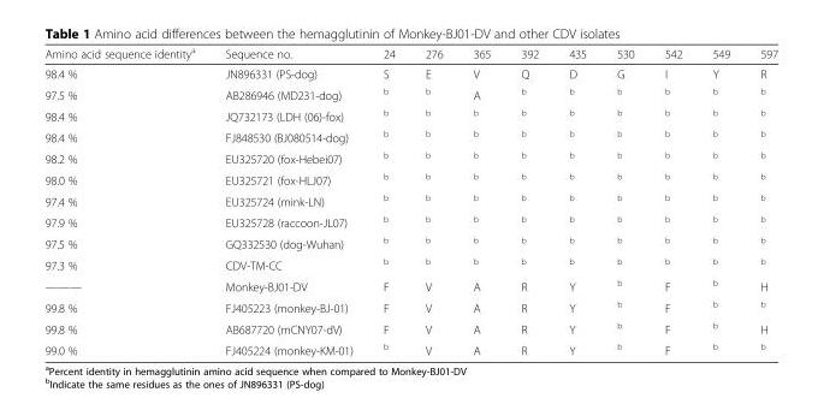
<table><thead><tr><td>Amino acid sequence identity<sup>a</sup></td><td>Sequence no.</td><td>24</td><td>276</td><td>365</td><td>392</td><td>435</td><td>530</td><td>542</td><td>549</td><td>597</td></tr></thead><tbody><tr><td>98.4 %</td><td>JN896331 (PS-dog)</td><td>S</td><td>E</td><td>V</td><td>Q</td><td>D</td><td>G</td><td>I</td><td>Y</td><td>R</td></tr><tr><td>97.5 %</td><td>AB286946 (MD231-dog)</td><td><sup>b</sup></td><td><sup>b</sup></td><td>A</td><td><sup>b</sup></td><td><sup>b</sup></td><td><sup>b</sup></td><td><sup>b</sup></td><td><sup>b</sup></td><td><sup>b</sup></td></tr><tr><td>98.4 %</td><td>JQ732173 (LDH (06)-fox)</td><td><sup>b</sup></td><td><sup>b</sup></td><td><sup>b</sup></td><td><sup>b</sup></td><td><sup>b</sup></td><td><sup>b</sup></td><td><sup>b</sup></td><td><sup>b</sup></td><td><sup>b</sup></td></tr><tr><td>98.4 %</td><td>FJ848530 (BJ080514-dog)</td><td><sup>b</sup></td><td><sup>b</sup></td><td><sup>b</sup></td><td><sup>b</sup></td><td><sup>b</sup></td><td><sup>b</sup></td><td><sup>b</sup></td><td><sup>b</sup></td><td><sup>b</sup></td></tr><tr><td>98.2 %</td><td>EU325720 (fox-Hebei07)</td><td><sup>b</sup></td><td><sup>b</sup></td><td><sup>b</sup></td><td><sup>b</sup></td><td><sup>b</sup></td><td><sup>b</sup></td><td><sup>b</sup></td><td><sup>b</sup></td><td><sup>b</sup></td></tr><tr><td>98.0 %</td><td>EU325721 (fox-HLJ07)</td><td><sup>b</sup></td><td><sup>b</sup></td><td><sup>b</sup></td><td><sup>b</sup></td><td><sup>b</sup></td><td><sup>b</sup></td><td><sup>b</sup></td><td><sup>b</sup></td><td><sup>b</sup></td></tr><tr><td>97.4 %</td><td>EU325724 (mink-LN)</td><td><sup>b</sup></td><td><sup>b</sup></td><td><sup>b</sup></td><td><sup>b</sup></td><td><sup>b</sup></td><td><sup>b</sup></td><td><sup>b</sup></td><td><sup>b</sup></td><td><sup>b</sup></td></tr><tr><td>97.9 %</td><td>EU325728 (raccoon-JL07)</td><td><sup>b</sup></td><td><sup>b</sup></td><td><sup>b</sup></td><td><sup>b</sup></td><td><sup>b</sup></td><td><sup>b</sup></td><td><sup>b</sup></td><td><sup>b</sup></td><td><sup>b</sup></td></tr><tr><td>97.5 %</td><td>GQ332530 (dog-Wuhan)</td><td><sup>b</sup></td><td><sup>b</sup></td><td><sup>b</sup></td><td><sup>b</sup></td><td><sup>b</sup></td><td><sup>b</sup></td><td><sup>b</sup></td><td><sup>b</sup></td><td><sup>b</sup></td></tr><tr><td>97.3 %</td><td>CDV-TM-CC</td><td><sup>b</sup></td><td><sup>b</sup></td><td><sup>b</sup></td><td><sup>b</sup></td><td><sup>b</sup></td><td><sup>b</sup></td><td><sup>b</sup></td><td><sup>b</sup></td><td><sup>b</sup></td></tr><tr><td>———</td><td>Monkey-BJ01-DV</td><td>F</td><td>V</td><td>A</td><td>R</td><td>Y</td><td><sup>b</sup></td><td>F</td><td><sup>b</sup></td><td>H</td></tr><tr><td>99.8 %</td><td>FJ405223 (monkey-BJ-01)</td><td>F</td><td>V</td><td>A</td><td>R</td><td>Y</td><td><sup>b</sup></td><td>F</td><td><sup>b</sup></td><td><sup>b</sup></td></tr><tr><td>99.8 %</td><td>AB687720 (mCNY07-dV)</td><td>F</td><td>V</td><td>A</td><td>R</td><td>Y</td><td><sup>b</sup></td><td>F</td><td><sup>b</sup></td><td>H</td></tr><tr><td>99.0 %</td><td>FJ405224 (monkey-KM-01)</td><td><sup>b</sup></td><td>V</td><td>A</td><td>R</td><td>Y</td><td><sup>b</sup></td><td>F</td><td><sup>b</sup></td><td><sup>b</sup></td></tr></tbody></table>